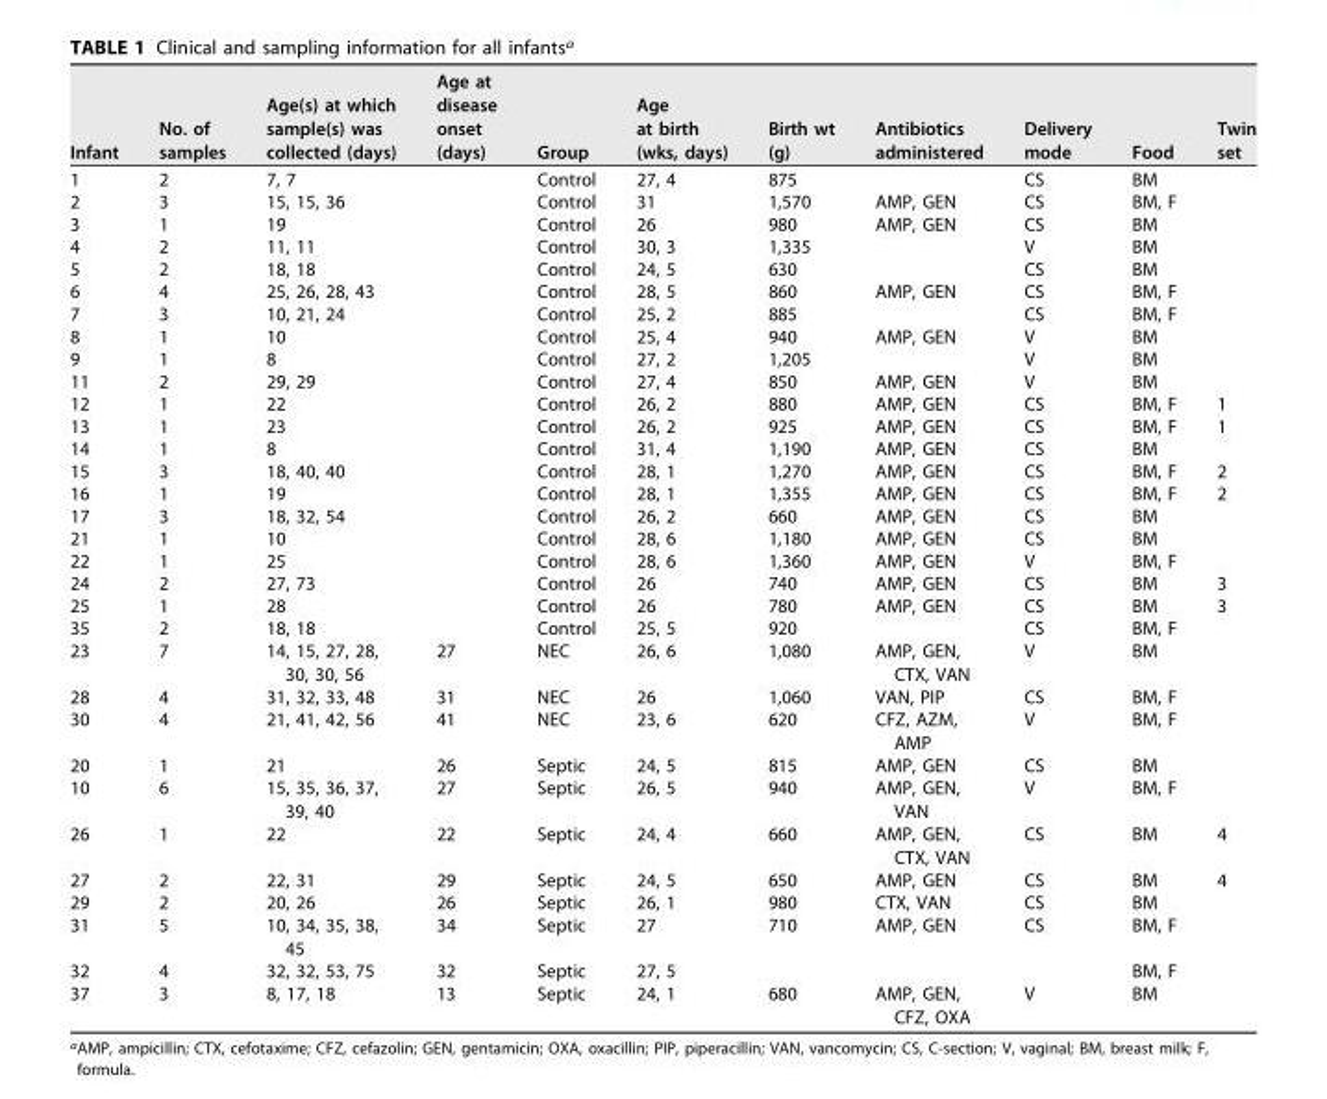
<table><thead><tr><td>Infant</td><td>No. of samples</td><td>Age(s) at which sample(s) was collected (days)</td><td>Age at disease onset (days)</td><td>Group</td><td>Age at birth (wks, days)</td><td>Birth wt (g)</td><td>Antibiotics administered</td><td>Delivery mode</td><td>Food</td><td>Twin set</td></tr></thead><tbody><tr><td>1</td><td>2</td><td>7, 7</td><td></td><td>Control</td><td>27, 4</td><td>875</td><td></td><td>CS</td><td>BM</td><td></td></tr><tr><td>2</td><td>3</td><td>15, 15, 36</td><td></td><td>Control</td><td>31</td><td>1,570</td><td>AMP, GEN</td><td>CS</td><td>BM, F</td><td></td></tr><tr><td>3</td><td>1</td><td>19</td><td></td><td>Control</td><td>26</td><td>980</td><td>AMP, GEN</td><td>CS</td><td>BM</td><td></td></tr><tr><td>4</td><td>2</td><td>11, 11</td><td></td><td>Control</td><td>30, 3</td><td>1,335</td><td></td><td>V</td><td>BM</td><td></td></tr><tr><td>5</td><td>2</td><td>18, 18</td><td></td><td>Control</td><td>24, 5</td><td>630</td><td></td><td>CS</td><td>BM</td><td></td></tr><tr><td>6</td><td>4</td><td>25, 26, 28, 43</td><td></td><td>Control</td><td>28, 5</td><td>860</td><td>AMP, GEN</td><td>CS</td><td>BM, F</td><td></td></tr><tr><td>7</td><td>3</td><td>10, 21, 24</td><td></td><td>Control</td><td>25, 2</td><td>885</td><td></td><td>CS</td><td>BM, F</td><td></td></tr><tr><td>8</td><td>1</td><td>10</td><td></td><td>Control</td><td>25, 4</td><td>940</td><td>AMP, GEN</td><td>V</td><td>BM</td><td></td></tr><tr><td>9</td><td>1</td><td>8</td><td></td><td>Control</td><td>27, 2</td><td>1,205</td><td></td><td>V</td><td>BM</td><td></td></tr><tr><td>11</td><td>2</td><td>29, 29</td><td></td><td>Control</td><td>27, 4</td><td>850</td><td>AMP, GEN</td><td>V</td><td>BM</td><td></td></tr><tr><td>12</td><td>1</td><td>22</td><td></td><td>Control</td><td>26, 2</td><td>880</td><td>AMP, GEN</td><td>CS</td><td>BM, F</td><td>1</td></tr><tr><td>13</td><td>1</td><td>23</td><td></td><td>Control</td><td>26, 2</td><td>925</td><td>AMP, GEN</td><td>CS</td><td>BM, F</td><td>1</td></tr><tr><td>14</td><td>1</td><td>8</td><td></td><td>Control</td><td>31, 4</td><td>1,190</td><td>AMP, GEN</td><td>CS</td><td>BM</td><td></td></tr><tr><td>15</td><td>3</td><td>18, 40, 40</td><td></td><td>Control</td><td>28, 1</td><td>1,270</td><td>AMP, GEN</td><td>CS</td><td>BM, F</td><td>2</td></tr><tr><td>16</td><td>1</td><td>19</td><td></td><td>Control</td><td>28, 1</td><td>1,355</td><td>AMP, GEN</td><td>CS</td><td>BM, F</td><td>2</td></tr><tr><td>17</td><td>3</td><td>18, 32, 54</td><td></td><td>Control</td><td>26, 2</td><td>660</td><td>AMP, GEN</td><td>CS</td><td>BM</td><td></td></tr><tr><td>21</td><td>1</td><td>10</td><td></td><td>Control</td><td>28, 6</td><td>1,180</td><td>AMP, GEN</td><td>CS</td><td>BM</td><td></td></tr><tr><td>22</td><td>1</td><td>25</td><td></td><td>Control</td><td>28, 6</td><td>1,360</td><td>AMP, GEN</td><td>V</td><td>BM, F</td><td></td></tr><tr><td>24</td><td>2</td><td>27, 73</td><td></td><td>Control</td><td>26</td><td>740</td><td>AMP, GEN</td><td>CS</td><td>BM</td><td>3</td></tr><tr><td>25</td><td>1</td><td>28</td><td></td><td>Control</td><td>26</td><td>780</td><td>AMP, GEN</td><td>CS</td><td>BM</td><td>3</td></tr><tr><td>35</td><td>2</td><td>18, 18</td><td></td><td>Control</td><td>25, 5</td><td>920</td><td></td><td>CS</td><td>BM, F</td><td></td></tr><tr><td>23</td><td>7</td><td>14, 15, 27, 28, 30, 30, 56</td><td>27</td><td>NEC</td><td>26, 6</td><td>1,080</td><td>AMP, GEN, CTX, VAN</td><td>V</td><td>BM</td><td></td></tr><tr><td>28</td><td>4</td><td>31, 32, 33, 48</td><td>31</td><td>NEC</td><td>26</td><td>1,060</td><td>VAN, PIP</td><td>CS</td><td>BM, F</td><td></td></tr><tr><td>30</td><td>4</td><td>21, 41, 42, 56</td><td>41</td><td>NEC</td><td>23, 6</td><td>620</td><td>CFZ, AZM, AMP</td><td>V</td><td>BM, F</td><td></td></tr><tr><td>20</td><td>1</td><td>21</td><td>26</td><td>Septic</td><td>24, 5</td><td>815</td><td>AMP, GEN</td><td>CS</td><td>BM</td><td></td></tr><tr><td>10</td><td>6</td><td>15, 35, 36, 37, 39, 40</td><td>27</td><td>Septic</td><td>26, 5</td><td>940</td><td>AMP, GEN, VAN</td><td>V</td><td>BM, F</td><td></td></tr><tr><td>26</td><td>1</td><td>22</td><td>22</td><td>Septic</td><td>24, 4</td><td>660</td><td>AMP, GEN, CTX, VAN</td><td>CS</td><td>BM</td><td>4</td></tr><tr><td>27</td><td>2</td><td>22, 31</td><td>29</td><td>Septic</td><td>24, 5</td><td>650</td><td>AMP, GEN</td><td>CS</td><td>BM</td><td>4</td></tr><tr><td>29</td><td>2</td><td>20, 26</td><td>26</td><td>Septic</td><td>26, 1</td><td>980</td><td>CTX, VAN</td><td>CS</td><td>BM</td><td></td></tr><tr><td>31</td><td>5</td><td>10, 34, 35, 38, 45</td><td>34</td><td>Septic</td><td>27</td><td>710</td><td>AMP, GEN</td><td>CS</td><td>BM, F</td><td></td></tr><tr><td>32</td><td>4</td><td>32, 32, 53, 75</td><td>32</td><td>Septic</td><td>27, 5</td><td></td><td></td><td></td><td>BM, F</td><td></td></tr><tr><td>37</td><td>3</td><td>8, 17, 18</td><td>13</td><td>Septic</td><td>24, 1</td><td>680</td><td>AMP, GEN, CFZ, OXA</td><td>V</td><td>BM</td><td></td></tr></tbody></table>